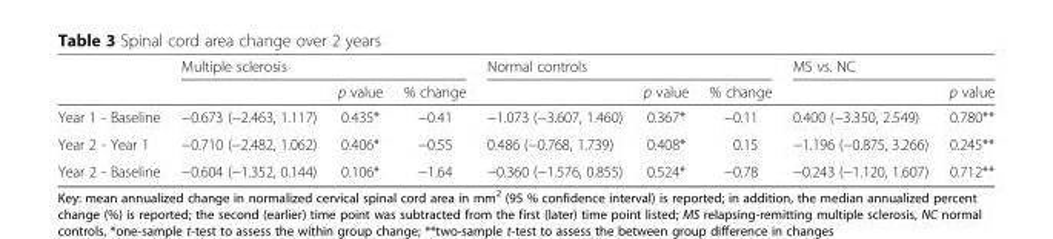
<table><thead><tr><td rowspan="2"></td><td colspan="3">Multiple sclerosis</td><td colspan="3">Normal controls</td><td colspan="2">MS vs. NC</td></tr><tr><td></td><td>p value</td><td>% change</td><td></td><td>p value</td><td>% change</td><td></td><td>p value</td></tr></thead><tbody><tr><td>Year 1 - Baseline</td><td>−0.673 (−2.463, 1.117)</td><td>0.435*</td><td>−0.41</td><td>−1.073 (−3.607, 1.460)</td><td>0.367*</td><td>−0.11</td><td>0.400 (−3.350, 2.549)</td><td>0.780**</td></tr><tr><td>Year 2 - Year 1</td><td>−0.710 (−2.482, 1.062)</td><td>0.406*</td><td>−0.55</td><td>0.486 (−0.768, 1.739)</td><td>0.408*</td><td>0.15</td><td>−1.196 (−0.875, 3.266)</td><td>0.245**</td></tr><tr><td>Year 2 - Baseline</td><td>−0.604 (−1.352, 0.144)</td><td>0.106*</td><td>−1.64</td><td>−0.360 (−1.576, 0.855)</td><td>0.524*</td><td>−0.78</td><td>−0.243 (−1.120, 1.607)</td><td>0.712**</td></tr></tbody></table>